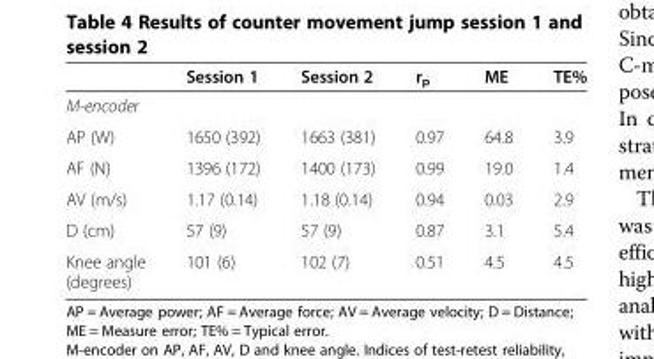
<table><thead><tr><td></td><td>Session 1</td><td>Session 2</td><td>r<sub>p</sub></td><td>ME</td><td>TE%</td></tr></thead><tbody><tr><td colspan="6">M-encoder</td></tr><tr><td>AP (W)</td><td>1650 (392)</td><td>1663 (381)</td><td>0.97</td><td>64.8</td><td>3.9</td></tr><tr><td>AF (N)</td><td>1396 (172)</td><td>1400 (173)</td><td>0.99</td><td>19.0</td><td>1.4</td></tr><tr><td>AV (m/s)</td><td>1.17 (0.14)</td><td>1.18 (0.14)</td><td>0.94</td><td>0.03</td><td>2.9</td></tr><tr><td>D (cm)</td><td>57 (9)</td><td>57 (9)</td><td>0.87</td><td>3.1</td><td>5.4</td></tr><tr><td>Knee angle (degrees)</td><td>101 (6)</td><td>102 (7)</td><td>0.51</td><td>4.5</td><td>4.5</td></tr></tbody></table>